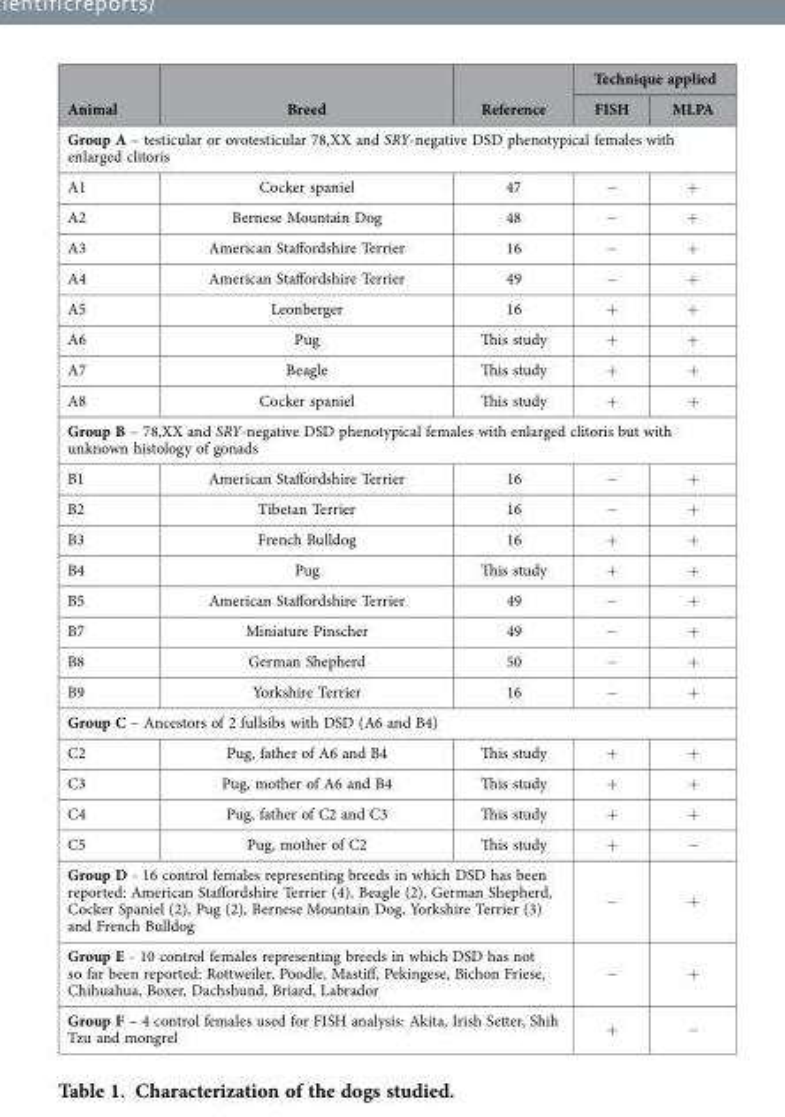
<table><thead><tr><td rowspan="2">Animal</td><td rowspan="2">Breed</td><td rowspan="2">Reference</td><td colspan="2">Technique applied</td></tr><tr><td>FISH</td><td>MLPA</td></tr></thead><tbody><tr><td colspan="5">Group A – testicular or ovotesticular 78,XX and SRY-negative DSD phenotypical females with enlarged clitoris</td></tr><tr><td>A1</td><td>Cocker spaniel</td><td>47</td><td>−</td><td>+</td></tr><tr><td>A2</td><td>Bernese Mountain Dog</td><td>48</td><td>−</td><td>+</td></tr><tr><td>A3</td><td>American Staffordshire Terrier</td><td>16</td><td>−</td><td>+</td></tr><tr><td>A4</td><td>American Staffordshire Terrier</td><td>49</td><td>−</td><td>+</td></tr><tr><td>A5</td><td>Leonberger</td><td>16</td><td>+</td><td>+</td></tr><tr><td>A6</td><td>Pug</td><td>This study</td><td>+</td><td>+</td></tr><tr><td>A7</td><td>Beagle</td><td>This study</td><td>+</td><td>+</td></tr><tr><td>A8</td><td>Cocker spaniel</td><td>This study</td><td>+</td><td>+</td></tr><tr><td colspan="5">Group B – 78,XX and SRY-negative DSD phenotypical females with enlarged clitoris but with unknown histology of gonads</td></tr><tr><td>B1</td><td>American Staffordshire Terrier</td><td>16</td><td>−</td><td>+</td></tr><tr><td>B2</td><td>Tibetan Terrier</td><td>16</td><td>−</td><td>+</td></tr><tr><td>B3</td><td>French Bulldog</td><td>16</td><td>+</td><td>+</td></tr><tr><td>B4</td><td>Pug</td><td>This study</td><td>+</td><td>+</td></tr><tr><td>B5</td><td>American Staffordshire Terrier</td><td>49</td><td>−</td><td>+</td></tr><tr><td>B7</td><td>Miniature Pinscher</td><td>49</td><td>−</td><td>+</td></tr><tr><td>B8</td><td>German Shepherd</td><td>50</td><td>−</td><td>+</td></tr><tr><td>B9</td><td>Yorkshire Terrier</td><td>16</td><td>−</td><td>+</td></tr><tr><td colspan="5">Group C – Ancestors of 2 fullsibs with DSD (A6 and B4)</td></tr><tr><td>C2</td><td>Pug, father of A6 and B4</td><td>This study</td><td>+</td><td>+</td></tr><tr><td>C3</td><td>Pug, mother of A6 and B4</td><td>This study</td><td>+</td><td>+</td></tr><tr><td>C4</td><td>Pug, father of C2 and C3</td><td>This study</td><td>+</td><td>+</td></tr><tr><td>C5</td><td>Pug, mother of C2</td><td>This study</td><td>+</td><td>−</td></tr><tr><td colspan="3">Group D - 16 control females representing breeds in which DSD has been reported: American Staffordshire Terrier (4), Beagle (2), German Shepherd, Cocker Spaniel (2), Pug (2), Bernese Mountain Dog, Yorkshire Terrier (3) and French Bulldog</td><td>−</td><td>+</td></tr><tr><td colspan="3">Group E - 10 control females representing breeds in which DSD has not so far been reported: Rottweiler, Poodle, Mastiff, Pekingese, Bichon Friese, Chihuahua, Boxer, Dachshund, Briard, Labrador</td><td>−</td><td>+</td></tr><tr><td colspan="3">Group F – 4 control females used for FISH analysis: Akita, Irish Setter, Shih Tzu and mongrel</td><td>+</td><td>−</td></tr></tbody></table>